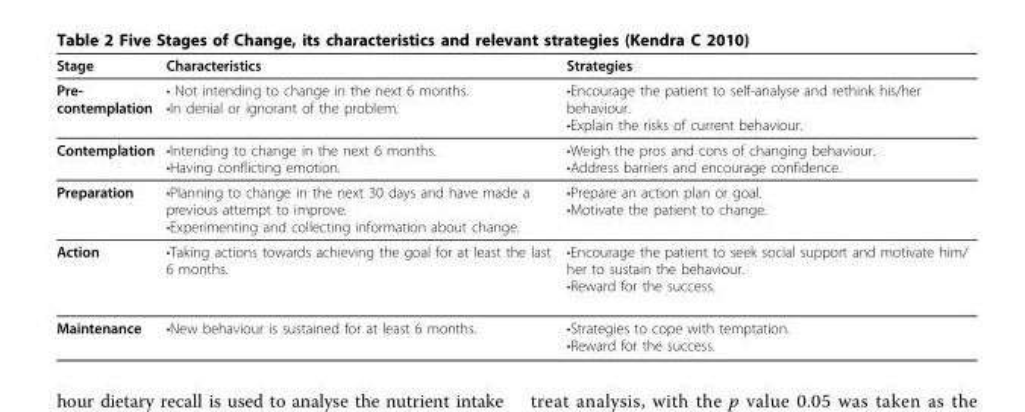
<table><thead><tr><td>Stage</td><td>Characteristics</td><td>Strategies</td></tr></thead><tbody><tr><td>Pre- contemplation</td><td>• Not intending to change in the next 6 months. •In denial or ignorant of the problem.</td><td>•Encourage the patient to self-analyse and rethink his/her behaviour. •Explain the risks of current behaviour.</td></tr><tr><td>Contemplation</td><td>•Intending to change in the next 6 months. •Having conflicting emotion.</td><td>•Weigh the pros and cons of changing behaviour. •Address barriers and encourage confidence.</td></tr><tr><td>Preparation</td><td>•Planning to change in the next 30 days and have made a previous attempt to improve. •Experimenting and collecting information about change.</td><td>•Prepare an action plan or goal. •Motivate the patient to change.</td></tr><tr><td>Action</td><td>•Taking actions towards achieving the goal for at least the last 6 months.</td><td>•Encourage the patient to seek social support and motivate him/ her to sustain the behaviour. •Reward for the success.</td></tr><tr><td>Maintenance</td><td>•New behaviour is sustained for at least 6 months.</td><td>•Strategies to cope with temptation. •Reward for the success.</td></tr></tbody></table>